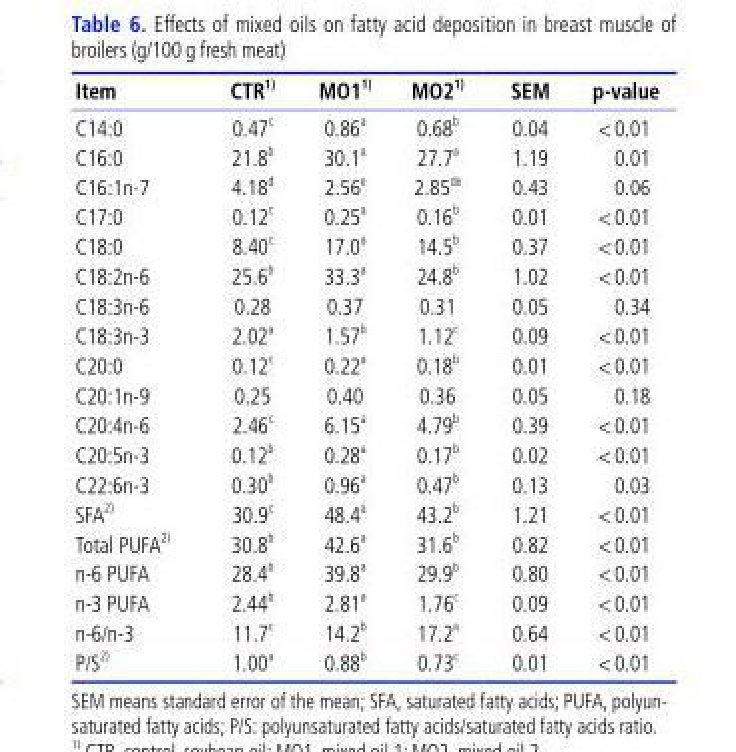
<table><thead><tr><td>Item</td><td>CTR 1)</td><td>MO1 1)</td><td>MO2 1)</td><td>SEM</td><td>p-value</td></tr></thead><tbody><tr><td>C14:0</td><td>0.47 <sup>c</sup></td><td>0.86 <sup>a</sup></td><td>0.68 <sup>b</sup></td><td>0.04</td><td>&lt;0.01</td></tr><tr><td>C16:0</td><td>21.8 <sup>b</sup></td><td>30.1 <sup>a</sup></td><td>27.7 <sup>a</sup></td><td>1.19</td><td>0.01</td></tr><tr><td>C16:1n-7</td><td>4.18 <sup>d</sup></td><td>2.56 <sup>e</sup></td><td>2.85 <sup>de</sup></td><td>0.43</td><td>0.06</td></tr><tr><td>C17:0</td><td>0.12 <sup>c</sup></td><td>0.25 <sup>a</sup></td><td>0.16 <sup>b</sup></td><td>0.01</td><td>&lt;0.01</td></tr><tr><td>C18:0</td><td>8.40 <sup>c</sup></td><td>17.0 <sup>a</sup></td><td>14.5 <sup>b</sup></td><td>0.37</td><td>&lt;0.01</td></tr><tr><td>C18:2n-6</td><td>25.6 <sup>b</sup></td><td>33.3 <sup>a</sup></td><td>24.8 <sup>b</sup></td><td>1.02</td><td>&lt;0.01</td></tr><tr><td>C18:3n-6</td><td>0.28</td><td>0.37</td><td>0.31</td><td>0.05</td><td>0.34</td></tr><tr><td>C18:3n-3</td><td>2.02 <sup>a</sup></td><td>1.57 <sup>b</sup></td><td>1.12 <sup>c</sup></td><td>0.09</td><td>&lt;0.01</td></tr><tr><td>C20:0</td><td>0.12 <sup>c</sup></td><td>0.22 <sup>a</sup></td><td>0.18 <sup>b</sup></td><td>0.01</td><td>&lt;0.01</td></tr><tr><td>C20:1n-9</td><td>0.25</td><td>0.40</td><td>0.36</td><td>0.05</td><td>0.18</td></tr><tr><td>C20:4n-6</td><td>2.46 <sup>c</sup></td><td>6.15 <sup>a</sup></td><td>4.79 <sup>b</sup></td><td>0.39</td><td>&lt;0.01</td></tr><tr><td>C20:5n-3</td><td>0.12 <sup>b</sup></td><td>0.28 <sup>a</sup></td><td>0.17 <sup>b</sup></td><td>0.02</td><td>&lt;0.01</td></tr><tr><td>C22:6n-3</td><td>0.30 <sup>b</sup></td><td>0.96 <sup>a</sup></td><td>0.47 <sup>b</sup></td><td>0.13</td><td>0.03</td></tr><tr><td>SFA <sup>2)</sup></td><td>30.9 <sup>c</sup></td><td>48.4 <sup>a</sup></td><td>43.2 <sup>b</sup></td><td>1.21</td><td>&lt;0.01</td></tr><tr><td>Total PUFA <sup>2)</sup></td><td>30.8 <sup>b</sup></td><td>42.6 <sup>a</sup></td><td>31.6 <sup>b</sup></td><td>0.82</td><td>&lt;0.01</td></tr><tr><td>n-6 PUFA</td><td>28.4 <sup>b</sup></td><td>39.8 <sup>a</sup></td><td>29.9 <sup>b</sup></td><td>0.80</td><td>&lt;0.01</td></tr><tr><td>n-3 PUFA</td><td>2.44 <sup>b</sup></td><td>2.81 <sup>a</sup></td><td>1.76 <sup>c</sup></td><td>0.09</td><td>&lt;0.01</td></tr><tr><td>n-6/n-3</td><td>11.7 <sup>c</sup></td><td>14.2 <sup>b</sup></td><td>17.2 <sup>a</sup></td><td>0.64</td><td>&lt;0.01</td></tr><tr><td>P/S <sup>2)</sup></td><td>1.00 <sup>a</sup></td><td>0.88 <sup>b</sup></td><td>0.73 <sup>c</sup></td><td>0.01</td><td>&lt;0.01</td></tr></tbody></table>